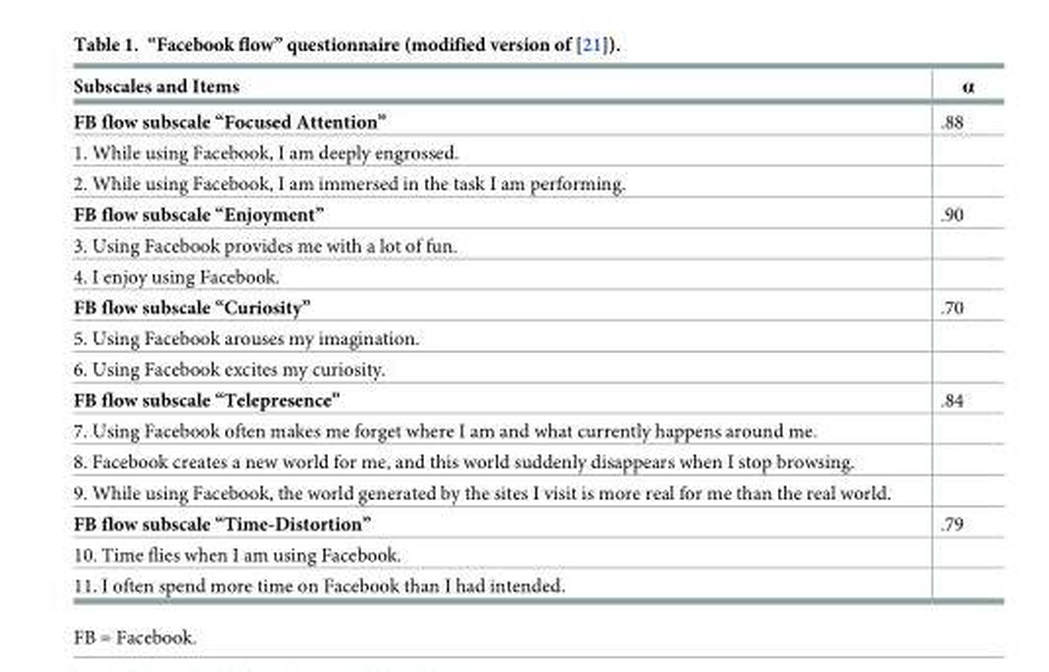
<table><thead><tr><td>Subscales and Items</td><td>α</td></tr></thead><tbody><tr><td>FB flow subscale “Focused Attention”</td><td>.88</td></tr><tr><td colspan="2">1. While using Facebook, I am deeply engrossed.</td></tr><tr><td colspan="2">2. While using Facebook, I am immersed in the task I am performing.</td></tr><tr><td>FB flow subscale “Enjoyment”</td><td>.90</td></tr><tr><td colspan="2">3. Using Facebook provides me with a lot of fun.</td></tr><tr><td colspan="2">4. I enjoy using Facebook.</td></tr><tr><td>FB flow subscale “Curiosity”</td><td>.70</td></tr><tr><td colspan="2">5. Using Facebook arouses my imagination.</td></tr><tr><td colspan="2">6. Using Facebook excites my curiosity.</td></tr><tr><td>FB flow subscale “Telepresence”</td><td>.84</td></tr><tr><td colspan="2">7. Using Facebook often makes me forget where I am and what currently happens around me.</td></tr><tr><td colspan="2">8. Facebook creates a new world for me, and this world suddenly disappears when I stop browsing.</td></tr><tr><td colspan="2">9. While using Facebook, the world generated by the sites I visit is more real for me than the real world.</td></tr><tr><td>FB flow subscale “Time-Distortion”</td><td>.79</td></tr><tr><td colspan="2">10. Time flies when I am using Facebook.</td></tr><tr><td>11. I often spend more time on Facebook than I had intended.</td><td></td></tr></tbody></table>